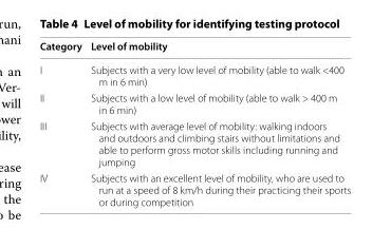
<table><thead><tr><td>Category</td><td>Level of mobility</td></tr></thead><tbody><tr><td>I</td><td>Subjects with a very low level of mobility (able to walk &lt;400 m in 6 min)</td></tr><tr><td>II</td><td>Subjects with a low level of mobility (able to walk &gt; 400 m in 6 min)</td></tr><tr><td>III</td><td>Subjects with average level of mobility: walking indoors and outdoors and climbing stairs without limitations and able to perform gross motor skills including running and jumping</td></tr><tr><td>IV</td><td>Subjects with an excellent level of mobility, who are used to run at a speed of 8 km/h during their practicing their sports or during competition</td></tr></tbody></table>